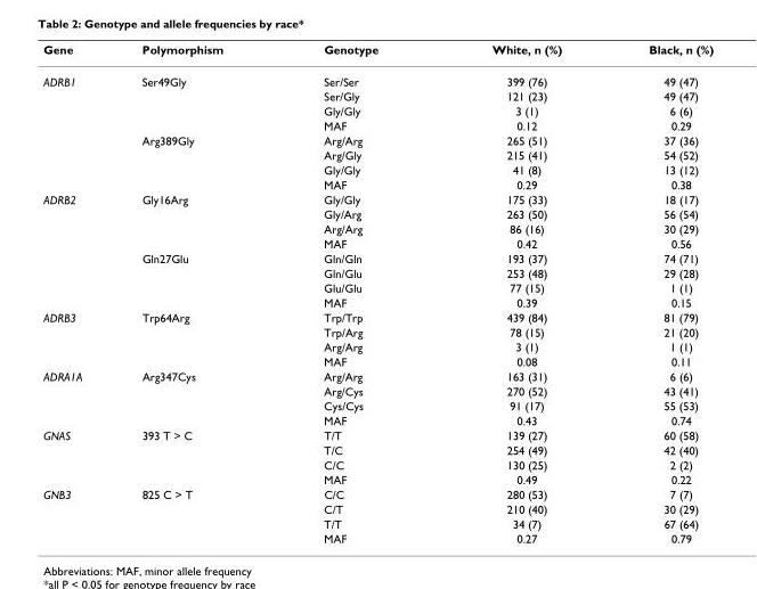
<table><thead><tr><td>Gene</td><td>Polymorphism</td><td>Genotype</td><td>White, n (%)</td><td>Black, n (%)</td></tr></thead><tbody><tr><td rowspan="8">ADRB1</td><td>Ser49Gly</td><td>Ser/Ser</td><td>399 (76)</td><td>49 (47)</td></tr><tr><td></td><td>Ser/Gly</td><td>121 (23)</td><td>49 (47)</td></tr><tr><td></td><td>Gly/Gly</td><td>3 (1)</td><td>6 (6)</td></tr><tr><td></td><td>MAF</td><td>0.12</td><td>0.29</td></tr><tr><td>Arg389Gly</td><td>Arg/Arg</td><td>265 (51)</td><td>37 (36)</td></tr><tr><td></td><td>Arg/Gly</td><td>215 (41)</td><td>54 (52)</td></tr><tr><td></td><td>Gly/Gly</td><td>41 (8)</td><td>13 (12)</td></tr><tr><td></td><td>MAF</td><td>0.29</td><td>0.38</td></tr><tr><td rowspan="8">ADRB2</td><td>Gly16Arg</td><td>Gly/Gly</td><td>175 (33)</td><td>18 (17)</td></tr><tr><td></td><td>Gly/Arg</td><td>263 (50)</td><td>56 (54)</td></tr><tr><td></td><td>Arg/Arg</td><td>86 (16)</td><td>30 (29)</td></tr><tr><td></td><td>MAF</td><td>0.42</td><td>0.56</td></tr><tr><td>Gln27Glu</td><td>Gln/Gln</td><td>193 (37)</td><td>74 (71)</td></tr><tr><td></td><td>Gln/Glu</td><td>253 (48)</td><td>29 (28)</td></tr><tr><td></td><td>Glu/Glu</td><td>77 (15)</td><td>1 (1)</td></tr><tr><td></td><td>MAF</td><td>0.39</td><td>0.15</td></tr><tr><td rowspan="4">ADRB3</td><td>Trp64Arg</td><td>Trp/Trp</td><td>439 (84)</td><td>81 (79)</td></tr><tr><td></td><td>Trp/Arg</td><td>78 (15)</td><td>21 (20)</td></tr><tr><td></td><td>Arg/Arg</td><td>3 (1)</td><td>1 (1)</td></tr><tr><td></td><td>MAF</td><td>0.08</td><td>0.11</td></tr><tr><td rowspan="4">ADRA1A</td><td>Arg347Cys</td><td>Arg/Arg</td><td>163 (31)</td><td>6 (6)</td></tr><tr><td></td><td>Arg/Cys</td><td>270 (52)</td><td>43 (41)</td></tr><tr><td></td><td>Cys/Cys</td><td>91 (17)</td><td>55 (53)</td></tr><tr><td></td><td>MAF</td><td>0.43</td><td>0.74</td></tr><tr><td rowspan="4">GNAS</td><td>393 T &gt; C</td><td>T/T</td><td>139 (27)</td><td>60 (58)</td></tr><tr><td></td><td>T/C</td><td>254 (49)</td><td>42 (40)</td></tr><tr><td></td><td>C/C</td><td>130 (25)</td><td>2 (2)</td></tr><tr><td></td><td>MAF</td><td>0.49</td><td>0.22</td></tr><tr><td rowspan="4">GNB3</td><td>825 C &gt; T</td><td>C/C</td><td>280 (53)</td><td>7 (7)</td></tr><tr><td></td><td>C/T</td><td>210 (40)</td><td>30 (29)</td></tr><tr><td></td><td>T/T</td><td>34 (7)</td><td>67 (64)</td></tr><tr><td></td><td>MAF</td><td>0.27</td><td>0.79</td></tr></tbody></table>